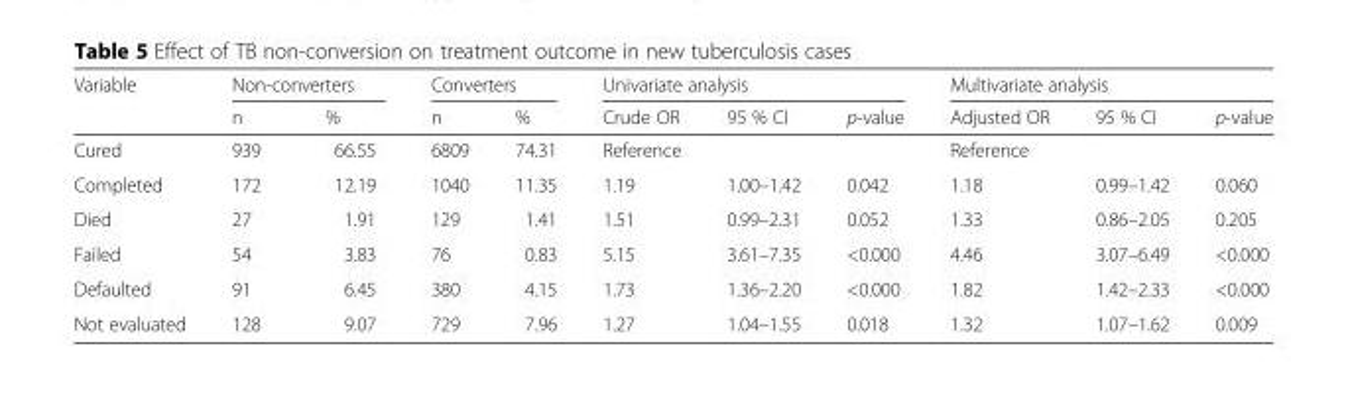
<table><thead><tr><td rowspan="2">Variable</td><td colspan="2">Non-converters</td><td colspan="2">Converters</td><td colspan="3">Univariate analysis</td><td colspan="3">Multivariate analysis</td></tr><tr><td>n</td><td>%</td><td>n</td><td>%</td><td>Crude OR</td><td>95 % CI</td><td>p-value</td><td>Adjusted OR</td><td>95 % CI</td><td>p-value</td></tr></thead><tbody><tr><td>Cured</td><td>939</td><td>66.55</td><td>6809</td><td>74.31</td><td>Reference</td><td></td><td></td><td>Reference</td><td></td><td></td></tr><tr><td>Completed</td><td>172</td><td>12.19</td><td>1040</td><td>11.35</td><td>1.19</td><td>1.00–1.42</td><td>0.042</td><td>1.18</td><td>0.99–1.42</td><td>0.060</td></tr><tr><td>Died</td><td>27</td><td>1.91</td><td>129</td><td>1.41</td><td>1.51</td><td>0.99–2.31</td><td>0.052</td><td>1.33</td><td>0.86–2.05</td><td>0.205</td></tr><tr><td>Failed</td><td>54</td><td>3.83</td><td>76</td><td>0.83</td><td>5.15</td><td>3.61–7.35</td><td>&lt;0.000</td><td>4.46</td><td>3.07–6.49</td><td>&lt;0.000</td></tr><tr><td>Defaulted</td><td>91</td><td>6.45</td><td>380</td><td>4.15</td><td>1.73</td><td>1.36–2.20</td><td>&lt;0.000</td><td>1.82</td><td>1.42–2.33</td><td>&lt;0.000</td></tr><tr><td>Not evaluated</td><td>128</td><td>9.07</td><td>729</td><td>7.96</td><td>1.27</td><td>1.04–1.55</td><td>0.018</td><td>1.32</td><td>1.07–1.62</td><td>0.009</td></tr></tbody></table>